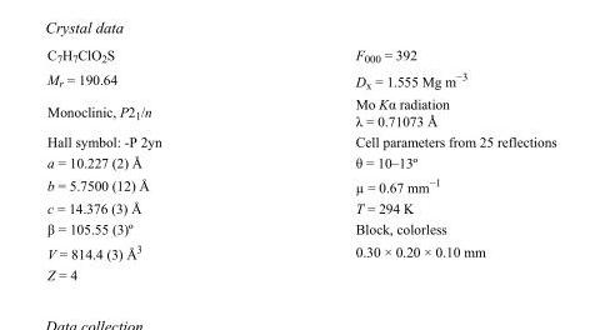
<table><tbody><tr><td>C<sub>7</sub>H<sub>7</sub>ClO<sub>2</sub>S</td><td>F000 = 392</td></tr><tr><td>M<sub>r</sub> = 190.64</td><td>D<sub>x</sub> = 1.555 Mg m<sup>−3</sup></td></tr><tr><td>Monoclinic, P2<sub>1</sub>/n</td><td>Mo Kα radiation λ = 0.71073 Å</td></tr><tr><td>Hall symbol: -P 2yn</td><td>Cell parameters from 25 reflections</td></tr><tr><td>a = 10.227 (2) Å</td><td>θ = 10–13º</td></tr><tr><td>b = 5.7500 (12) Å</td><td>µ = 0.67 mm<sup>−1</sup></td></tr><tr><td>c = 14.376 (3) Å</td><td>T = 294 K</td></tr><tr><td>β = 105.55 (3)º</td><td>Block, colorless</td></tr><tr><td>V = 814.4 (3) Å<sup>3</sup></td><td>0.30 × 0.20 × 0.10 mm</td></tr><tr><td>Z = 4</td><td></td></tr></tbody></table>